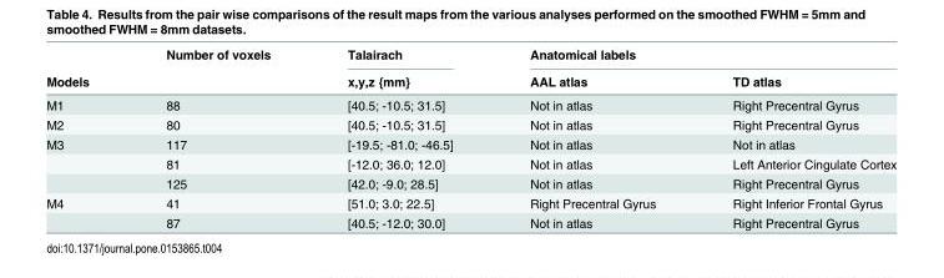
<table><thead><tr><td rowspan="2">Models</td><td rowspan="2">Number of voxels</td><td rowspan="2">Talairach x,y,z {mm}</td><td colspan="2">Anatomical labels</td></tr><tr><td>AAL atlas</td><td>TD atlas</td></tr></thead><tbody><tr><td>M1</td><td>88</td><td>[40.5; -10.5; 31.5]</td><td>Not in atlas</td><td>Right Precentral Gyrus</td></tr><tr><td>M2</td><td>80</td><td>[40.5; -10.5; 31.5]</td><td>Not in atlas</td><td>Right Precentral Gyrus</td></tr><tr><td rowspan="3">M3</td><td>117</td><td>[-19.5; -81.0; -46.5]</td><td>Not in atlas</td><td>Not in atlas</td></tr><tr><td>81</td><td>[-12.0; 36.0; 12.0]</td><td>Not in atlas</td><td>Left Anterior Cingulate Cortex</td></tr><tr><td>125</td><td>[42.0; -9.0; 28.5]</td><td>Not in atlas</td><td>Right Precentral Gyrus</td></tr><tr><td rowspan="2">M4</td><td>41</td><td>[51.0; 3.0; 22.5]</td><td>Right Precentral Gyrus</td><td>Right Inferior Frontal Gyrus</td></tr><tr><td>87</td><td>[40.5; -12.0; 30.0]</td><td>Not in atlas</td><td>Right Precentral Gyrus</td></tr></tbody></table>